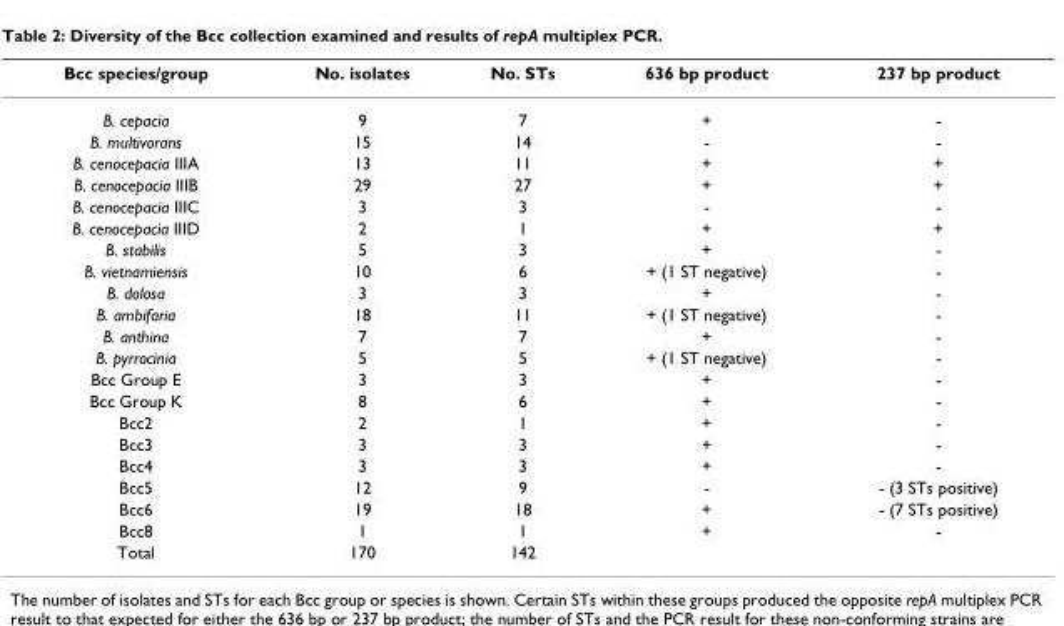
<table><thead><tr><td>Bcc species/group</td><td>No. isolates</td><td>No. STs</td><td>636 bp product</td><td>237 bp product</td></tr></thead><tbody><tr><td>B. cepacia</td><td>9</td><td>7</td><td>+</td><td>-</td></tr><tr><td>B. multivorans</td><td>15</td><td>14</td><td>-</td><td>-</td></tr><tr><td>B. cenocepacia IIIA</td><td>13</td><td>11</td><td>+</td><td>+</td></tr><tr><td>B. cenocepacia IIIB</td><td>29</td><td>27</td><td>+</td><td>+</td></tr><tr><td>B. cenocepacia IIIC</td><td>3</td><td>3</td><td>-</td><td>-</td></tr><tr><td>B. cenocepacia IIID</td><td>2</td><td>1</td><td>+</td><td>+</td></tr><tr><td>B. stabilis</td><td>5</td><td>3</td><td>+</td><td>-</td></tr><tr><td>B. vietnamiensis</td><td>10</td><td>6</td><td>+ (1 ST negative)</td><td>-</td></tr><tr><td>B. dolosa</td><td>3</td><td>3</td><td>+</td><td>-</td></tr><tr><td>B. ambifaria</td><td>18</td><td>11</td><td>+ (1 ST negative)</td><td>-</td></tr><tr><td>B. anthina</td><td>7</td><td>7</td><td>+</td><td>-</td></tr><tr><td>B. pyrrocinia</td><td>5</td><td>5</td><td>+ (1 ST negative)</td><td>-</td></tr><tr><td>Bcc Group E</td><td>3</td><td>3</td><td>+</td><td>-</td></tr><tr><td>Bcc Group K</td><td>8</td><td>6</td><td>+</td><td>-</td></tr><tr><td>Bcc2</td><td>2</td><td>1</td><td>+</td><td>-</td></tr><tr><td>Bcc3</td><td>3</td><td>3</td><td>+</td><td>-</td></tr><tr><td>Bcc4</td><td>3</td><td>3</td><td>+</td><td>-</td></tr><tr><td>Bcc5</td><td>12</td><td>9</td><td>-</td><td>- (3 STs positive)</td></tr><tr><td>Bcc6</td><td>19</td><td>18</td><td>+</td><td>- (7 STs positive)</td></tr><tr><td>Bcc8</td><td>1</td><td>1</td><td>+</td><td>-</td></tr><tr><td>Total</td><td>170</td><td>142</td><td></td><td></td></tr></tbody></table>